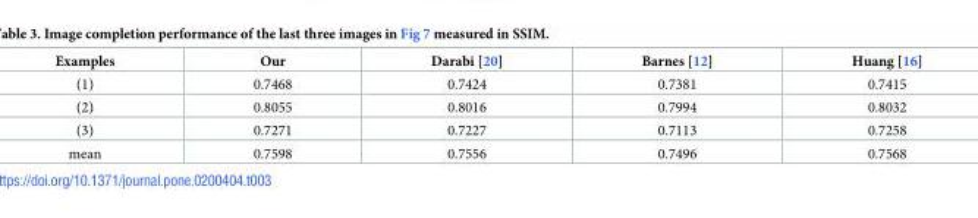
<table><thead><tr><td>Examples</td><td>Our</td><td>Darabi [20]</td><td>Barnes [12]</td><td>Huang [16]</td></tr></thead><tbody><tr><td>(1)</td><td>0.7468</td><td>0.7424</td><td>0.7381</td><td>0.7415</td></tr><tr><td>(2)</td><td>0.8055</td><td>0.8016</td><td>0.7994</td><td>0.8032</td></tr><tr><td>(3)</td><td>0.7271</td><td>0.7227</td><td>0.7113</td><td>0.7258</td></tr><tr><td>mean</td><td>0.7598</td><td>0.7556</td><td>0.7496</td><td>0.7568</td></tr></tbody></table>